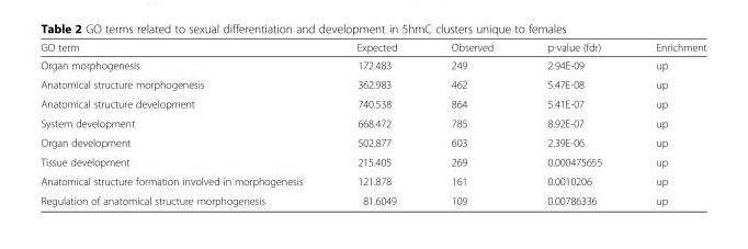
<table><thead><tr><td>GO term</td><td>Expected</td><td>Observed</td><td>p-value (fdr)</td><td>Enrichment</td></tr></thead><tbody><tr><td>Organ morphogenesis</td><td>172.483</td><td>249</td><td>2.94E-09</td><td>up</td></tr><tr><td>Anatomical structure morphogenesis</td><td>362.983</td><td>462</td><td>5.47E-08</td><td>up</td></tr><tr><td>Anatomical structure development</td><td>740.538</td><td>864</td><td>5.41E-07</td><td>up</td></tr><tr><td>System development</td><td>668.472</td><td>785</td><td>8.92E-07</td><td>up</td></tr><tr><td>Organ development</td><td>502.877</td><td>603</td><td>2.39E-06</td><td>up</td></tr><tr><td>Tissue development</td><td>215.405</td><td>269</td><td>0.000475655</td><td>up</td></tr><tr><td>Anatomical structure formation involved in morphogenesis</td><td>121.878</td><td>161</td><td>0.0010206</td><td>up</td></tr><tr><td>Regulation of anatomical structure morphogenesis</td><td>81.6049</td><td>109</td><td>0.00786336</td><td>up</td></tr></tbody></table>